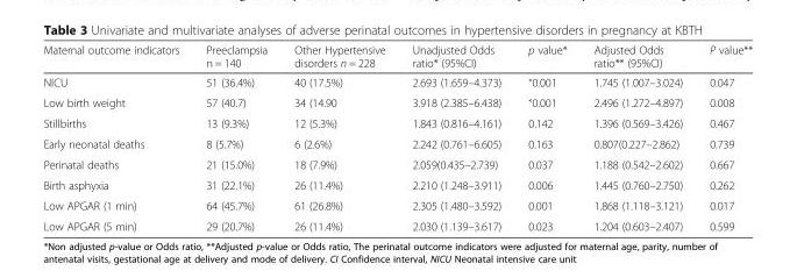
<table><thead><tr><td>Maternal outcome indicators</td><td>Preeclampsia n = 140</td><td>Other Hypertensive disorders n = 228</td><td>Unadjusted Odds ratio* (95%CI)</td><td>p value*</td><td>Adjusted Odds ratio** (95%CI)</td><td>P value**</td></tr></thead><tbody><tr><td>NICU</td><td>51 (36.4%)</td><td>40 (17.5%)</td><td>2.693 (1.659–4.373)</td><td>˂0.001</td><td>1.745 (1.007–3.024)</td><td>0.047</td></tr><tr><td>Low birth weight</td><td>57 (40.7)</td><td>34 (14.90</td><td>3.918 (2.385–6.438)</td><td>˂0.001</td><td>2.496 (1.272–4.897)</td><td>0.008</td></tr><tr><td>Stillbirths</td><td>13 (9.3%)</td><td>12 (5.3%)</td><td>1.843 (0.816–4.161)</td><td>0.142</td><td>1.396 (0.569–3.426)</td><td>0.467</td></tr><tr><td>Early neonatal deaths</td><td>8 (5.7%)</td><td>6 (2.6%)</td><td>2.242 (0.761–6.605)</td><td>0.163</td><td>0.807(0.227–2.862)</td><td>0.739</td></tr><tr><td>Perinatal deaths</td><td>21 (15.0%)</td><td>18 (7.9%)</td><td>2.059(0.435–2.739)</td><td>0.037</td><td>1.188 (0.542–2.602)</td><td>0.667</td></tr><tr><td>Birth asphyxia</td><td>31 (22.1%)</td><td>26 (11.4%)</td><td>2.210 (1.248–3.911)</td><td>0.006</td><td>1.445 (0.760–2.750)</td><td>0.262</td></tr><tr><td>Low APGAR (1 min)</td><td>64 (45.7%)</td><td>61 (26.8%)</td><td>2.305 (1.480–3.592)</td><td>0.001</td><td>1.868 (1.118–3.121)</td><td>0.017</td></tr><tr><td>Low APGAR (5 min)</td><td>29 (20.7%)</td><td>26 (11.4%)</td><td>2.030 (1.139–3.617)</td><td>0.023</td><td>1.204 (0.603–2.407)</td><td>0.599</td></tr></tbody></table>